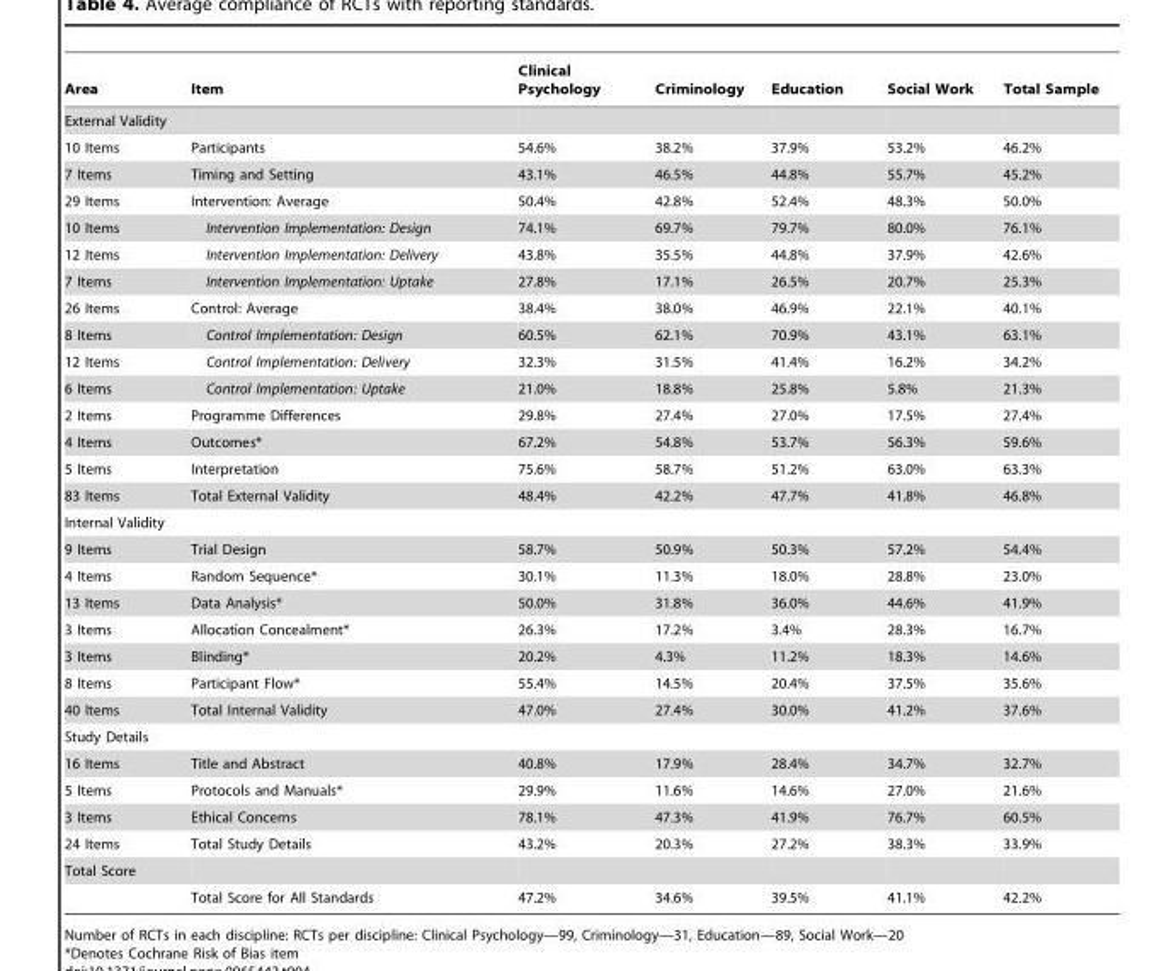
<table><thead><tr><td>Area</td><td>Item</td><td>Clinical Psychology</td><td>Criminology</td><td>Education</td><td>Social Work</td><td>Total Sample</td></tr></thead><tbody><tr><td colspan="7">External Validity</td></tr><tr><td>10 Items</td><td>Participants</td><td>54.6%</td><td>38.2%</td><td>37.9%</td><td>53.2%</td><td>46.2%</td></tr><tr><td>7 Items</td><td>Timing and Setting</td><td>43.1%</td><td>46.5%</td><td>44.8%</td><td>55.7%</td><td>45.2%</td></tr><tr><td>29 Items</td><td>Intervention: Average</td><td>50.4%</td><td>42.8%</td><td>52.4%</td><td>48.3%</td><td>50.0%</td></tr><tr><td>10 Items</td><td>Intervention Implementation: Design</td><td>74.1%</td><td>69.7%</td><td>79.7%</td><td>80.0%</td><td>76.1%</td></tr><tr><td>12 Items</td><td>Intervention Implementation: Delivery</td><td>43.8%</td><td>35.5%</td><td>44.8%</td><td>37.9%</td><td>42.6%</td></tr><tr><td>7 Items</td><td>Intervention Implementation: Uptake</td><td>27.8%</td><td>17.1%</td><td>26.5%</td><td>20.7%</td><td>25.3%</td></tr><tr><td>26 Items</td><td>Control: Average</td><td>38.4%</td><td>38.0%</td><td>46.9%</td><td>22.1%</td><td>40.1%</td></tr><tr><td>8 Items</td><td>Control Implementation: Design</td><td>60.5%</td><td>62.1%</td><td>70.9%</td><td>43.1%</td><td>63.1%</td></tr><tr><td>12 Items</td><td>Control Implementation: Delivery</td><td>32.3%</td><td>31.5%</td><td>41.4%</td><td>16.2%</td><td>34.2%</td></tr><tr><td>6 Items</td><td>Control Implementation: Uptake</td><td>21.0%</td><td>18.8%</td><td>25.8%</td><td>5.8%</td><td>21.3%</td></tr><tr><td>2 Items</td><td>Programme Differences</td><td>29.8%</td><td>27.4%</td><td>27.0%</td><td>17.5%</td><td>27.4%</td></tr><tr><td>4 Items</td><td>Outcomes*</td><td>67.2%</td><td>54.8%</td><td>53.7%</td><td>56.3%</td><td>59.6%</td></tr><tr><td>5 Items</td><td>Interpretation</td><td>75.6%</td><td>58.7%</td><td>51.2%</td><td>63.0%</td><td>63.3%</td></tr><tr><td>83 Items</td><td>Total External Validity</td><td>48.4%</td><td>42.2%</td><td>47.7%</td><td>41.8%</td><td>46.8%</td></tr><tr><td colspan="7">Internal Validity</td></tr><tr><td>9 Items</td><td>Trial Design</td><td>58.7%</td><td>50.9%</td><td>50.3%</td><td>57.2%</td><td>54.4%</td></tr><tr><td>4 Items</td><td>Random Sequence*</td><td>30.1%</td><td>11.3%</td><td>18.0%</td><td>28.8%</td><td>23.0%</td></tr><tr><td>13 Items</td><td>Data Analysis*</td><td>50.0%</td><td>31.8%</td><td>36.0%</td><td>44.6%</td><td>41.9%</td></tr><tr><td>3 Items</td><td>Allocation Concealment*</td><td>26.3%</td><td>17.2%</td><td>3.4%</td><td>28.3%</td><td>16.7%</td></tr><tr><td>3 Items</td><td>Blinding*</td><td>20.2%</td><td>4.3%</td><td>11.2%</td><td>18.3%</td><td>14.6%</td></tr><tr><td>8 Items</td><td>Participant Flow*</td><td>55.4%</td><td>14.5%</td><td>20.4%</td><td>37.5%</td><td>35.6%</td></tr><tr><td>40 Items</td><td>Total Internal Validity</td><td>47.0%</td><td>27.4%</td><td>30.0%</td><td>41.2%</td><td>37.6%</td></tr><tr><td colspan="7">Study Details</td></tr><tr><td>16 Items</td><td>Title and Abstract</td><td>40.8%</td><td>17.9%</td><td>28.4%</td><td>34.7%</td><td>32.7%</td></tr><tr><td>5 Items</td><td>Protocols and Manuals*</td><td>29.9%</td><td>11.6%</td><td>14.6%</td><td>27.0%</td><td>21.6%</td></tr><tr><td>3 Items</td><td>Ethical Concerns</td><td>78.1%</td><td>47.3%</td><td>41.9%</td><td>76.7%</td><td>60.5%</td></tr><tr><td>24 Items</td><td>Total Study Details</td><td>43.2%</td><td>20.3%</td><td>27.2%</td><td>38.3%</td><td>33.9%</td></tr><tr><td colspan="7">Total Score</td></tr><tr><td></td><td>Total Score for All Standards</td><td>47.2%</td><td>34.6%</td><td>39.5%</td><td>41.1%</td><td>42.2%</td></tr></tbody></table>